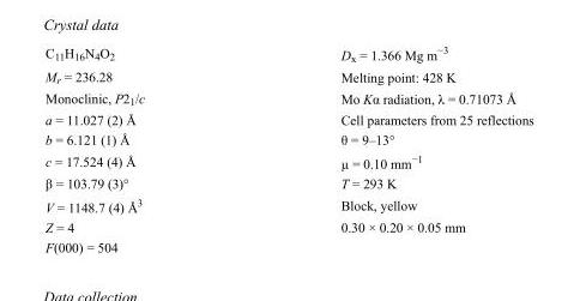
<table><tbody><tr><td>C<sub>11</sub>H<sub>16</sub>N<sub>4</sub>O<sub>2</sub></td><td>D<sub>x</sub> = 1.366 Mg m<sup>−3</sup></td></tr><tr><td>M<sub>r</sub> = 236.28</td><td>Melting point: 428 K</td></tr><tr><td>Monoclinic, P2<sub>1</sub>/c</td><td>Mo Kα radiation, λ = 0.71073 Å</td></tr><tr><td>a = 11.027 (2) Å</td><td>Cell parameters from 25 reflections</td></tr><tr><td>b = 6.121 (1) Å</td><td>θ = 9–13°</td></tr><tr><td>c = 17.524 (4) Å</td><td>µ = 0.10 mm<sup>−1</sup></td></tr><tr><td>β = 103.79 (3)°</td><td>T = 293 K</td></tr><tr><td>V = 1148.7 (4) Å<sup>3</sup></td><td>Block, yellow</td></tr><tr><td>Z = 4</td><td>0.30 × 0.20 × 0.05 mm</td></tr><tr><td>F(000) = 504</td><td></td></tr></tbody></table>